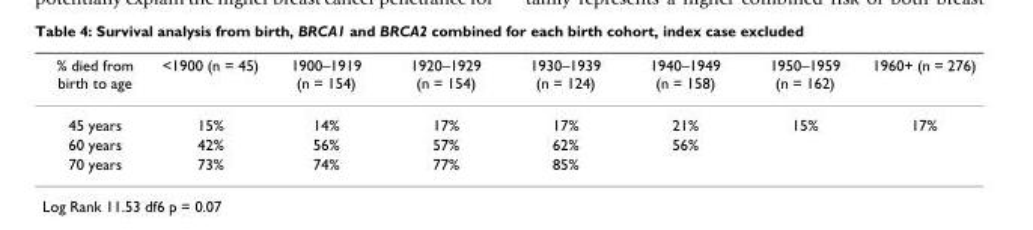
<table><thead><tr><td>% died from birth to age</td><td>&lt;1900 (n = 45)</td><td>1900–1919 (n = 154)</td><td>1920–1929 (n = 154)</td><td>1930–1939 (n = 124)</td><td>1940–1949 (n = 158)</td><td>1950–1959 (n = 162)</td><td>1960+ (n = 276)</td></tr></thead><tbody><tr><td>45 years</td><td>15%</td><td>14%</td><td>17%</td><td>17%</td><td>21%</td><td>15%</td><td>17%</td></tr><tr><td>60 years</td><td>42%</td><td>56%</td><td>57%</td><td>62%</td><td>56%</td><td></td><td></td></tr><tr><td>70 years</td><td>73%</td><td>74%</td><td>77%</td><td>85%</td><td></td><td></td><td></td></tr></tbody></table>